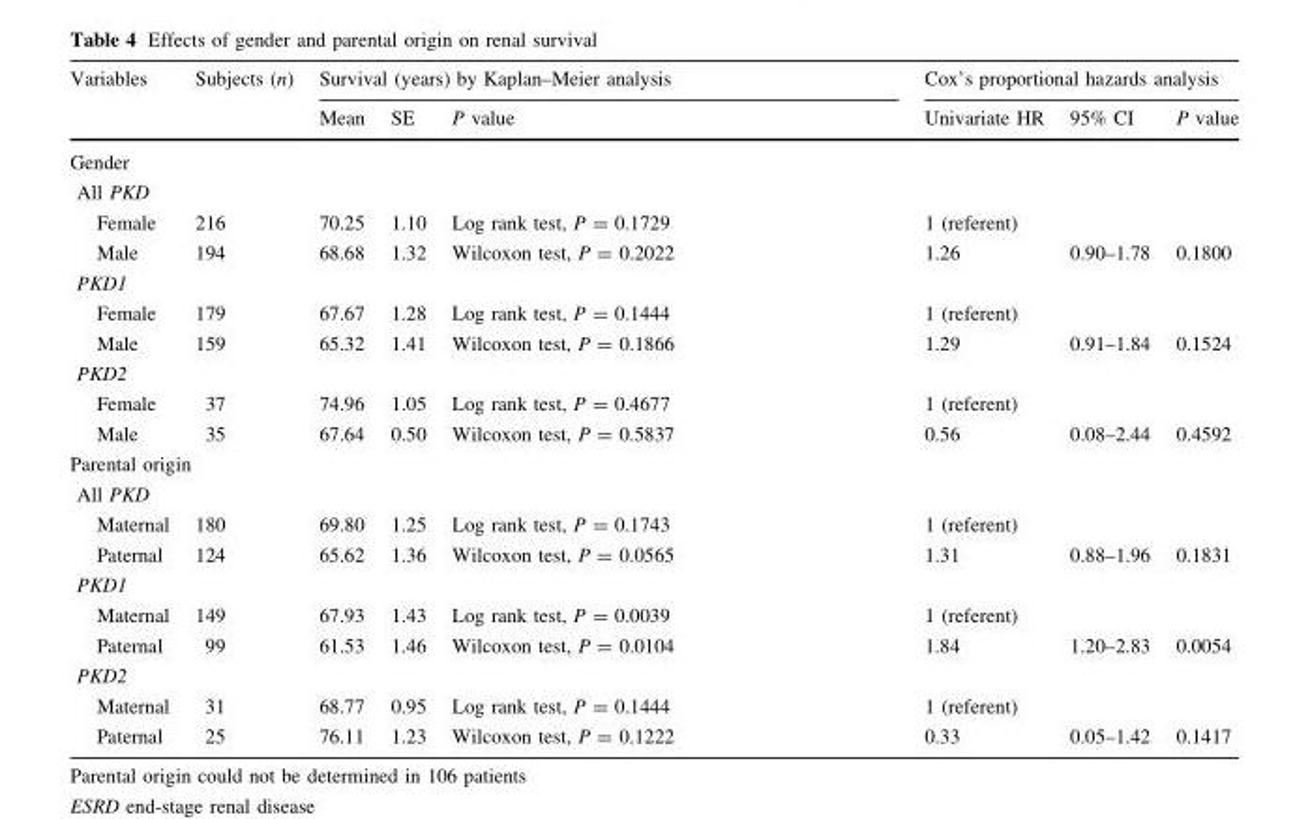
<table><thead><tr><td rowspan="2">Variables</td><td rowspan="2">Subjects (n)</td><td colspan="3">Survival (years) by Kaplan–Meier analysis</td><td colspan="3">Cox’s proportional hazards analysis</td></tr><tr><td>Mean</td><td>SE</td><td>P value</td><td>Univariate HR</td><td>95% CI</td><td>P value</td></tr></thead><tbody><tr><td colspan="8">Gender</td></tr><tr><td colspan="8">All PKD</td></tr><tr><td>Female</td><td>216</td><td>70.25</td><td>1.10</td><td rowspan="2">Log rank test, P = 0.1729 Wilcoxon test, P = 0.2022</td><td>1 (referent)</td><td></td><td></td></tr><tr><td>Male</td><td>194</td><td>68.68</td><td>1.32</td><td>1.26</td><td>0.90–1.78</td><td>0.1800</td></tr><tr><td colspan="8">PKD1</td></tr><tr><td>Female</td><td>179</td><td>67.67</td><td>1.28</td><td rowspan="2">Log rank test, P = 0.1444 Wilcoxon test, P = 0.1866</td><td>1 (referent)</td><td></td><td></td></tr><tr><td>Male</td><td>159</td><td>65.32</td><td>1.41</td><td>1.29</td><td>0.91–1.84</td><td>0.1524</td></tr><tr><td colspan="8">PKD2</td></tr><tr><td>Female</td><td>37</td><td>74.96</td><td>1.05</td><td rowspan="2">Log rank test, P = 0.4677 Wilcoxon test, P = 0.5837</td><td>1 (referent)</td><td></td><td></td></tr><tr><td>Male</td><td>35</td><td>67.64</td><td>0.50</td><td>0.56</td><td>0.08–2.44</td><td>0.4592</td></tr><tr><td colspan="8">Parental origin</td></tr><tr><td colspan="8">All PKD</td></tr><tr><td>Maternal</td><td>180</td><td>69.80</td><td>1.25</td><td rowspan="2">Log rank test, P = 0.1743 Wilcoxon test, P = 0.0565</td><td>1 (referent)</td><td></td><td></td></tr><tr><td>Paternal</td><td>124</td><td>65.62</td><td>1.36</td><td>1.31</td><td>0.88–1.96</td><td>0.1831</td></tr><tr><td colspan="8">PKD1</td></tr><tr><td>Maternal</td><td>149</td><td>67.93</td><td>1.43</td><td rowspan="2">Log rank test, P = 0.0039 Wilcoxon test, P = 0.0104</td><td>1 (referent)</td><td></td><td></td></tr><tr><td>Paternal</td><td>99</td><td>61.53</td><td>1.46</td><td>1.84</td><td>1.20–2.83</td><td>0.0054</td></tr><tr><td colspan="8">PKD2</td></tr><tr><td>Maternal</td><td>31</td><td>68.77</td><td>0.95</td><td rowspan="2">Log rank test, P = 0.1444 Wilcoxon test, P = 0.1222</td><td>1 (referent)</td><td></td><td></td></tr><tr><td>Paternal</td><td>25</td><td>76.11</td><td>1.23</td><td>0.33</td><td>0.05–1.42</td><td>0.1417</td></tr></tbody></table>